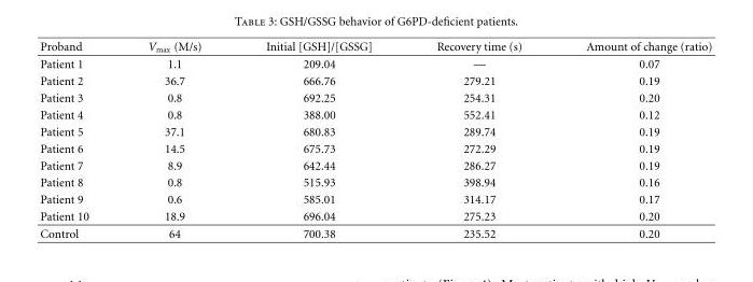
<table><thead><tr><td>Proband</td><td>V<sub>max</sub> (M/s)</td><td>Initial [GSH]/[GSSG]</td><td>Recovery time (s)</td><td>Amount of change (ratio)</td></tr></thead><tbody><tr><td>Patient 1</td><td>1.1</td><td>209.04</td><td>—</td><td>0.07</td></tr><tr><td>Patient 2</td><td>36.7</td><td>666.76</td><td>279.21</td><td>0.19</td></tr><tr><td>Patient 3</td><td>0.8</td><td>692.25</td><td>254.31</td><td>0.20</td></tr><tr><td>Patient 4</td><td>0.8</td><td>388.00</td><td>552.41</td><td>0.12</td></tr><tr><td>Patient 5</td><td>37.1</td><td>680.83</td><td>289.74</td><td>0.19</td></tr><tr><td>Patient 6</td><td>14.5</td><td>675.73</td><td>272.29</td><td>0.19</td></tr><tr><td>Patient 7</td><td>8.9</td><td>642.44</td><td>286.27</td><td>0.19</td></tr><tr><td>Patient 8</td><td>0.8</td><td>515.93</td><td>398.94</td><td>0.16</td></tr><tr><td>Patient 9</td><td>0.6</td><td>585.01</td><td>314.17</td><td>0.17</td></tr><tr><td>Patient 10</td><td>18.9</td><td>696.04</td><td>275.23</td><td>0.20</td></tr><tr><td>Control</td><td>64</td><td>700.38</td><td>235.52</td><td>0.20</td></tr></tbody></table>